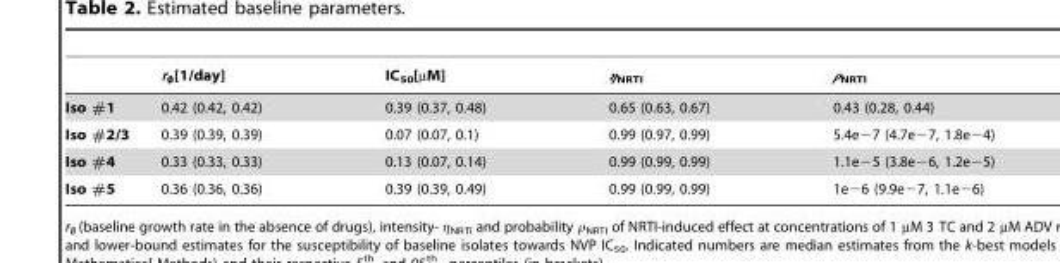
<table><thead><tr><td></td><td>r<sub>0/</sub>[1/day]</td><td>IC<sub>50</sub>[µM]</td><td>η<sub>NRTI</sub></td><td>ρ<sub>NRTI</sub></td></tr></thead><tbody><tr><td>Iso #1</td><td>0.42 (0.42, 0.42)</td><td>0.39 (0.37, 0.48)</td><td>0.65 (0.63, 0.67)</td><td>0.43 (0.28, 0.44)</td></tr><tr><td>Iso #2/3</td><td>0.39 (0.39, 0.39)</td><td>0.07 (0.07, 0.1)</td><td>0.99 (0.97, 0.99)</td><td>5.4e−7 (4.7e−7, 1.8e−4)</td></tr><tr><td>Iso #4</td><td>0.33 (0.33, 0.33)</td><td>0.13 (0.07, 0.14)</td><td>0.99 (0.99, 0.99)</td><td>1.1e−5 (3.8e−6, 1.2e−5)</td></tr><tr><td>Iso #5</td><td>0.36 (0.36, 0.36)</td><td>0.39 (0.39, 0.49)</td><td>0.99 (0.99, 0.99)</td><td>1e−6 (9.9e−7, 1.1e−6)</td></tr></tbody></table>